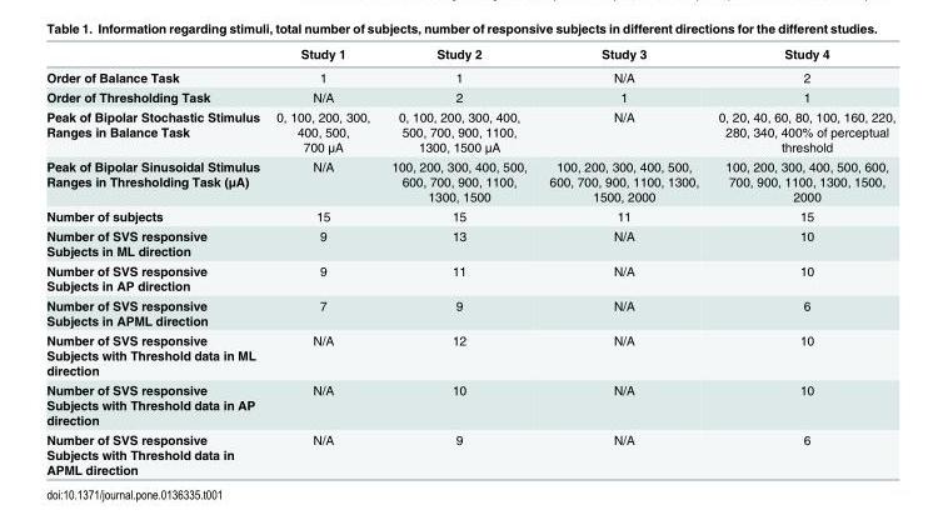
<table><thead><tr><td></td><td>Study 1</td><td>Study 2</td><td>Study 3</td><td>Study 4</td></tr></thead><tbody><tr><td>Order of Balance Task</td><td>1</td><td>1</td><td>N/A</td><td>2</td></tr><tr><td>Order of Thresholding Task</td><td>N/A</td><td>2</td><td>1</td><td>1</td></tr><tr><td>Peak of Bipolar Stochastic Stimulus Ranges in Balance Task</td><td>0, 100, 200, 300, 400, 500, 700 μA</td><td>0, 100, 200, 300, 400, 500, 700, 900, 1100, 1300, 1500 μA</td><td>N/A</td><td>0, 20, 40, 60, 80, 100, 160, 220, 280, 340, 400% of perceptual threshold</td></tr><tr><td>Peak of Bipolar Sinusoidal Stimulus Ranges in Thresholding Task (μA)</td><td>N/A</td><td>100, 200, 300, 400, 500, 600, 700, 900, 1100, 1300, 1500</td><td>100, 200, 300, 400, 500, 600, 700, 900, 1100, 1300, 1500, 2000</td><td>100, 200, 300, 400, 500, 600, 700, 900, 1100, 1300, 1500, 2000</td></tr><tr><td>Number of subjects</td><td>15</td><td>15</td><td>11</td><td>15</td></tr><tr><td>Number of SVS responsive Subjects in ML direction</td><td>9</td><td>13</td><td>N/A</td><td>10</td></tr><tr><td>Number of SVS responsive Subjects in AP direction</td><td>9</td><td>11</td><td>N/A</td><td>10</td></tr><tr><td>Number of SVS responsive Subjects in APML direction</td><td>7</td><td>9</td><td>N/A</td><td>6</td></tr><tr><td>Number of SVS responsive Subjects with Threshold data in ML direction</td><td>N/A</td><td>12</td><td>N/A</td><td>10</td></tr><tr><td>Number of SVS responsive Subjects with Threshold data in AP direction</td><td>N/A</td><td>10</td><td>N/A</td><td>10</td></tr><tr><td>Number of SVS responsive Subjects with Threshold data in APML direction</td><td>N/A</td><td>9</td><td>N/A</td><td>6</td></tr></tbody></table>